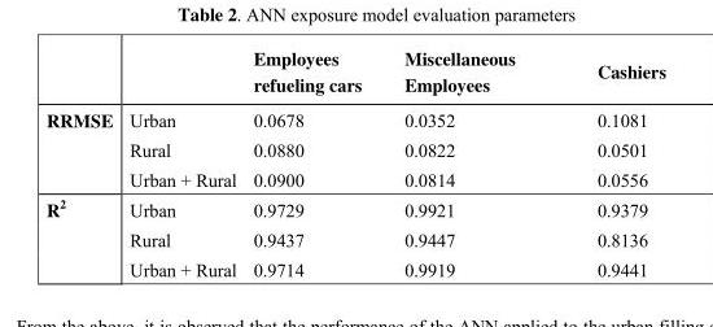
<table><thead><tr><td></td><td></td><td>Employees refueling cars</td><td>Miscellaneous Employees</td><td>Cashiers</td></tr></thead><tbody><tr><td rowspan="3">RRMSE</td><td>Urban</td><td>0.0678</td><td>0.0352</td><td>0.1081</td></tr><tr><td>Rural</td><td>0.0880</td><td>0.0822</td><td>0.0501</td></tr><tr><td>Urban + Rural</td><td>0.0900</td><td>0.0814</td><td>0.0556</td></tr><tr><td rowspan="3">R<sup>2</sup></td><td>Urban</td><td>0.9729</td><td>0.9921</td><td>0.9379</td></tr><tr><td>Rural</td><td>0.9437</td><td>0.9447</td><td>0.8136</td></tr><tr><td>Urban + Rural</td><td>0.9714</td><td>0.9919</td><td>0.9441</td></tr></tbody></table>